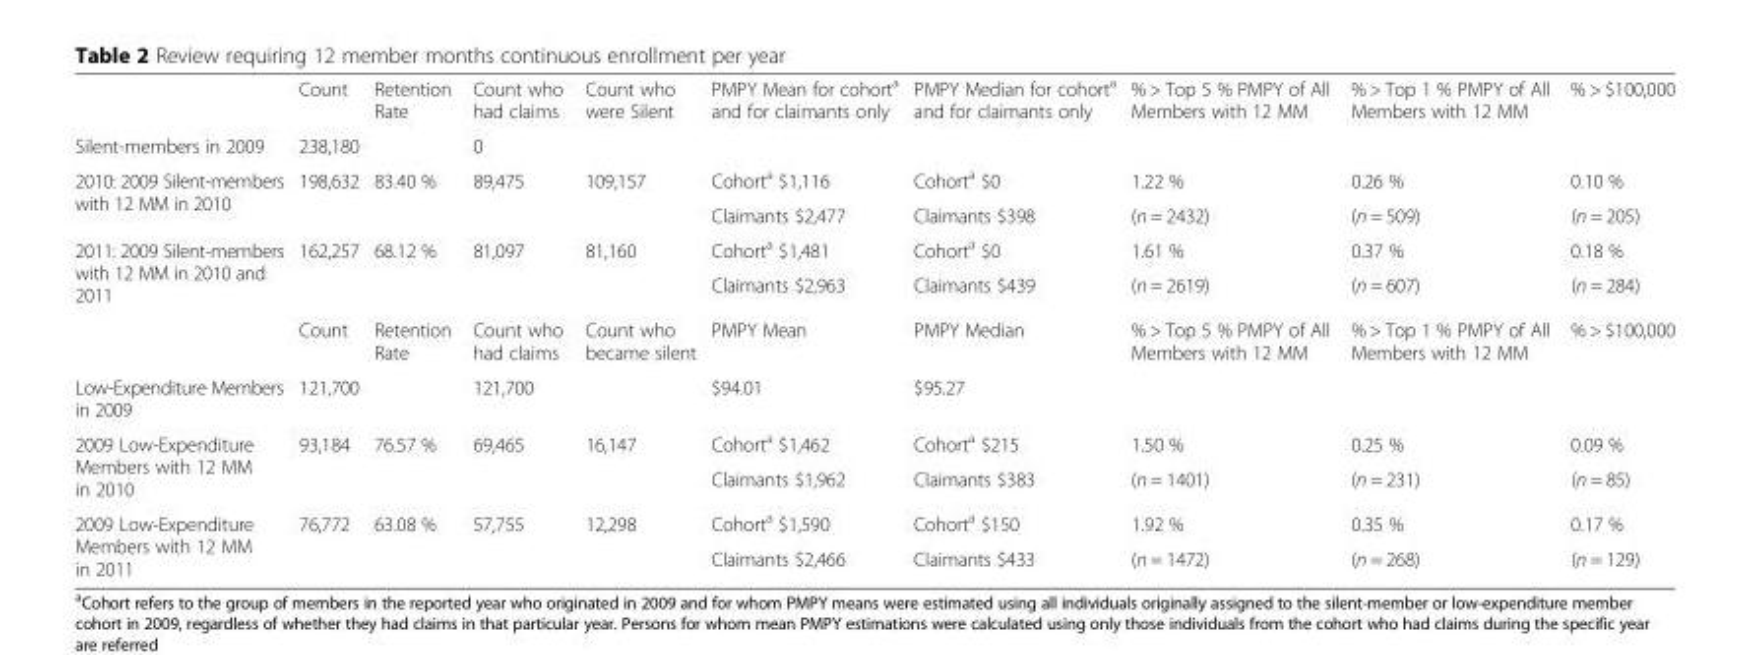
<table><thead><tr><td></td><td>Count</td><td>Retention Rate</td><td>Count who had claims</td><td>Count who were Silent</td><td>PMPY Mean for cohort<sup>a</sup> and for claimants only</td><td>PMPY Median for cohort<sup>a</sup> and for claimants only</td><td>% &gt; Top 5 % PMPY of All Members with 12 MM</td><td>% &gt; Top 1 % PMPY of All Members with 12 MM</td><td>% &gt; $100,000</td></tr></thead><tbody><tr><td>Silent-members in 2009</td><td>238,180</td><td></td><td>0</td><td></td><td></td><td></td><td></td><td></td><td></td></tr><tr><td rowspan="2">2010: 2009 Silent-members with 12 MM in 2010</td><td>198,632</td><td>83.40 %</td><td>89,475</td><td>109,157</td><td>Cohort<sup>a</sup> $1,116</td><td>Cohort<sup>a</sup> $0</td><td>1.22 %</td><td>0.26 %</td><td>0.10 %</td></tr><tr><td></td><td></td><td></td><td></td><td>Claimants $2,477</td><td>Claimants $398</td><td>(n = 2432)</td><td>(n = 509)</td><td>(n = 205)</td></tr><tr><td rowspan="3">2011: 2009 Silent-members with 12 MM in 2010 and 2011</td><td>162,257</td><td>68.12 %</td><td>81,097</td><td>81,160</td><td>Cohort<sup>a</sup> $1,481</td><td>Cohort<sup>a</sup> $0</td><td>1.61 %</td><td>0.37 %</td><td>0.18 %</td></tr><tr><td></td><td></td><td></td><td></td><td>Claimants $2,963</td><td>Claimants $439</td><td>(n = 2619)</td><td>(n = 607)</td><td>(n = 284)</td></tr><tr><td>Count</td><td>Retention Rate</td><td>Count who had claims</td><td>Count who became silent</td><td>PMPY Mean</td><td>PMPY Median</td><td>% &gt; Top 5 % PMPY of All Members with 12 MM</td><td>% &gt; Top 1 % PMPY of All Members with 12 MM</td><td>% &gt; $100,000</td></tr><tr><td>Low-Expenditure Members in 2009</td><td>121,700</td><td></td><td>121,700</td><td></td><td>$94.01</td><td>$95.27</td><td></td><td></td><td></td></tr><tr><td rowspan="2">2009 Low-Expenditure Members with 12 MM in 2010</td><td>93,184</td><td>76.57 %</td><td>69,465</td><td>16,147</td><td>Cohort<sup>a</sup> $1,462</td><td>Cohort<sup>a</sup> $215</td><td>1.50 %</td><td>0.25 %</td><td>0.09 %</td></tr><tr><td></td><td></td><td></td><td></td><td>Claimants $1,962</td><td>Claimants $383</td><td>(n = 1401)</td><td>(n = 231)</td><td>(n = 85)</td></tr><tr><td rowspan="2">2009 Low-Expenditure Members with 12 MM in 2011</td><td rowspan="2">76,772</td><td rowspan="2">63.08 %</td><td rowspan="2">57,755</td><td rowspan="2">12,298</td><td>Cohort<sup>a</sup> $1,590</td><td>Cohort<sup>a</sup> $150</td><td>1.92 %</td><td>0.35 %</td><td>0.17 %</td></tr><tr><td>Claimants $2,466</td><td>Claimants $433</td><td>(n = 1472)</td><td>(n = 268)</td><td>(n = 129)</td></tr></tbody></table>